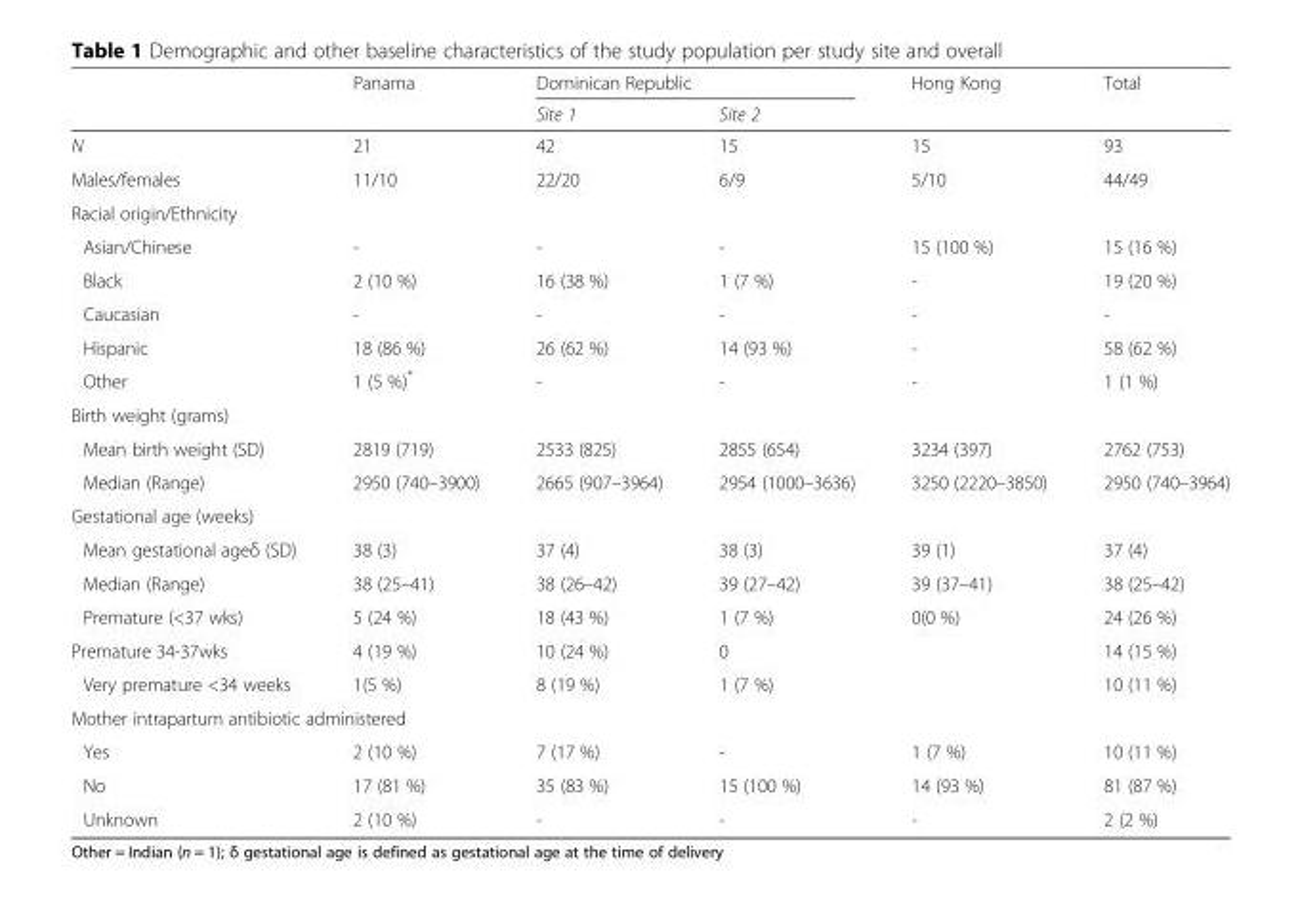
<table><thead><tr><td rowspan="2"></td><td rowspan="2">Panama</td><td colspan="2">Dominican Republic</td><td rowspan="2">Hong Kong</td><td rowspan="2">Total</td></tr><tr><td>Site 1</td><td>Site 2</td></tr></thead><tbody><tr><td>N</td><td>21</td><td>42</td><td>15</td><td>15</td><td>93</td></tr><tr><td>Males/females</td><td>11/10</td><td>22/20</td><td>6/9</td><td>5/10</td><td>44/49</td></tr><tr><td colspan="6">Racial origin/Ethnicity</td></tr><tr><td>Asian/Chinese</td><td>-</td><td>-</td><td>-</td><td>15 (100 %)</td><td>15 (16 %)</td></tr><tr><td>Black</td><td>2 (10 %)</td><td>16 (38 %)</td><td>1 (7 %)</td><td>-</td><td>19 (20 %)</td></tr><tr><td>Caucasian</td><td>-</td><td>-</td><td>-</td><td>-</td><td>-</td></tr><tr><td>Hispanic</td><td>18 (86 %)</td><td>26 (62 %)</td><td>14 (93 %)</td><td>-</td><td>58 (62 %)</td></tr><tr><td>Other</td><td>1 (5 %)*</td><td>-</td><td>-</td><td>-</td><td>1 (1 %)</td></tr><tr><td colspan="6">Birth weight (grams)</td></tr><tr><td>Mean birth weight (SD)</td><td>2819 (719)</td><td>2533 (825)</td><td>2855 (654)</td><td>3234 (397)</td><td>2762 (753)</td></tr><tr><td>Median (Range)</td><td>2950 (740–3900)</td><td>2665 (907–3964)</td><td>2954 (1000–3636)</td><td>3250 (2220–3850)</td><td>2950 (740–3964)</td></tr><tr><td colspan="6">Gestational age (weeks)</td></tr><tr><td>Mean gestational ageδ (SD)</td><td>38 (3)</td><td>37 (4)</td><td>38 (3)</td><td>39 (1)</td><td>37 (4)</td></tr><tr><td>Median (Range)</td><td>38 (25–41)</td><td>38 (26–42)</td><td>39 (27–42)</td><td>39 (37–41)</td><td>38 (25–42)</td></tr><tr><td>Premature (&lt;37 wks)</td><td>5 (24 %)</td><td>18 (43 %)</td><td>1 (7 %)</td><td rowspan="3">0(0 %)</td><td>24 (26 %)</td></tr><tr><td>Premature 34-37wks</td><td>4 (19 %)</td><td>10 (24 %)</td><td>0</td><td>14 (15 %)</td></tr><tr><td>Very premature &lt;34 weeks</td><td>1(5 %)</td><td>8 (19 %)</td><td>1 (7 %)</td><td>10 (11 %)</td></tr><tr><td colspan="6">Mother intrapartum antibiotic administered</td></tr><tr><td>Yes</td><td>2 (10 %)</td><td>7 (17 %)</td><td>-</td><td>1 (7 %)</td><td>10 (11 %)</td></tr><tr><td>No</td><td>17 (81 %)</td><td>35 (83 %)</td><td>15 (100 %)</td><td>14 (93 %)</td><td>81 (87 %)</td></tr><tr><td>Unknown</td><td>2 (10 %)</td><td>-</td><td>-</td><td>-</td><td>2 (2 %)</td></tr></tbody></table>